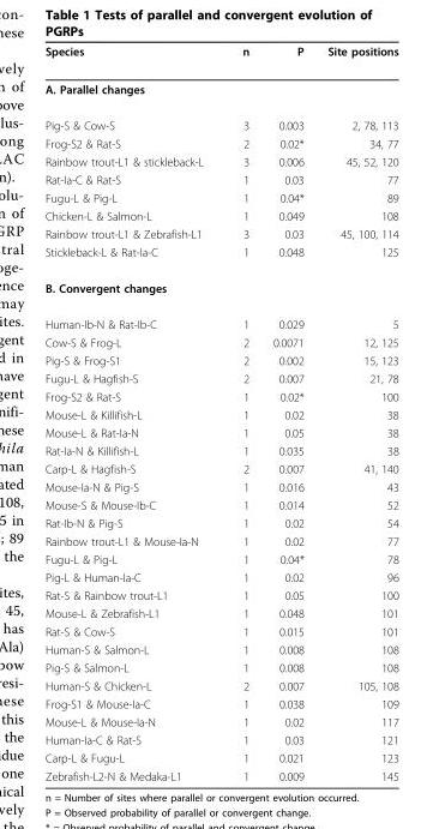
<table><thead><tr><td>Species</td><td>n</td><td>P</td><td>Site positions</td></tr></thead><tbody><tr><td colspan="4">A. Parallel changes</td></tr><tr><td>Pig-S &amp; Cow-S</td><td>3</td><td>0.003</td><td>2, 78, 113</td></tr><tr><td>Frog-S2 &amp; Rat-S</td><td>2</td><td>0.02*</td><td>34, 77</td></tr><tr><td>Rainbow trout-L1 &amp; stickleback-L</td><td>3</td><td>0.006</td><td>45, 52, 120</td></tr><tr><td>Rat-Ia-C &amp; Rat-S</td><td>1</td><td>0.03</td><td>77</td></tr><tr><td>Fugu-L &amp; Pig-L</td><td>1</td><td>0.04*</td><td>89</td></tr><tr><td>Chicken-L &amp; Salmon-L</td><td>1</td><td>0.049</td><td>108</td></tr><tr><td>Rainbow trout-L1 &amp; Zebrafish-L1</td><td>3</td><td>0.03</td><td>45, 100, 114</td></tr><tr><td>Stickleback-L &amp; Rat-Ia-C</td><td>1</td><td>0.048</td><td>125</td></tr><tr><td colspan="4">B. Convergent changes</td></tr><tr><td>Human-Ib-N &amp; Rat-Ib-C</td><td>1</td><td>0.029</td><td>5</td></tr><tr><td>Cow-S &amp; Frog-L</td><td>2</td><td>0.0071</td><td>12, 125</td></tr><tr><td>Pig-S &amp; Frog-S1</td><td>2</td><td>0.002</td><td>15, 123</td></tr><tr><td>Fugu-L &amp; Hagfish-S</td><td>2</td><td>0.007</td><td>21, 78</td></tr><tr><td>Frog-S2 &amp; Rat-S</td><td>1</td><td>0.02*</td><td>100</td></tr><tr><td>Mouse-L &amp; Killifish-L</td><td>1</td><td>0.02</td><td>38</td></tr><tr><td>Mouse-L &amp; Rat-Ia-N</td><td>1</td><td>0.05</td><td>38</td></tr><tr><td>Rat-Ia-N &amp; Killifish-L</td><td>1</td><td>0.035</td><td>38</td></tr><tr><td>Carp-L &amp; Hagfish-S</td><td>2</td><td>0.007</td><td>41, 140</td></tr><tr><td>Mouse-Ia-N &amp; Pig-S</td><td>1</td><td>0.016</td><td>43</td></tr><tr><td>Mouse-S &amp; Mouse-Ib-C</td><td>1</td><td>0.014</td><td>52</td></tr><tr><td>Rat-Ib-N &amp; Pig-S</td><td>1</td><td>0.02</td><td>54</td></tr><tr><td>Rainbow trout-L1 &amp; Mouse-Ia-N</td><td>1</td><td>0.02</td><td>77</td></tr><tr><td>Fugu-L &amp; Pig-L</td><td>1</td><td>0.04*</td><td>78</td></tr><tr><td>Pig-L &amp; Human-Ia-C</td><td>1</td><td>0.02</td><td>96</td></tr><tr><td>Rat-S &amp; Rainbow trout-L1</td><td>1</td><td>0.05</td><td>100</td></tr><tr><td>Mouse-L &amp; Zebrafish-L1</td><td>1</td><td>0.048</td><td>101</td></tr><tr><td>Rat-S &amp; Cow-S</td><td>1</td><td>0.015</td><td>101</td></tr><tr><td>Human-S &amp; Salmon-L</td><td>1</td><td>0.008</td><td>108</td></tr><tr><td>Pig-S &amp; Salmon-L</td><td>1</td><td>0.008</td><td>108</td></tr><tr><td>Human-S &amp; Chicken-L</td><td>2</td><td>0.007</td><td>105, 108</td></tr><tr><td>Frog-S1 &amp; Mouse-Ia-C</td><td>1</td><td>0.038</td><td>109</td></tr><tr><td>Mouse-L &amp; Mouse-Ia-N</td><td>1</td><td>0.02</td><td>117</td></tr><tr><td>Human-Ia-C &amp; Rat-S</td><td>1</td><td>0.03</td><td>121</td></tr><tr><td>Carp-L &amp; Fugu-L</td><td>1</td><td>0.021</td><td>123</td></tr><tr><td>Zebrafish-L2-N &amp; Medaka-L1</td><td>1</td><td>0.009</td><td>145</td></tr></tbody></table>